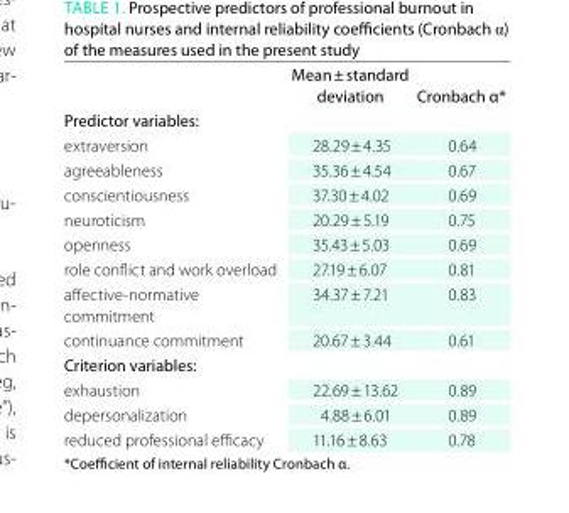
<table><thead><tr><td></td><td>Mean ± standard deviation</td><td>Cronbach α*</td></tr></thead><tbody><tr><td colspan="3">Predictor variables:</td></tr><tr><td>extraversion</td><td>28.29 ± 4.35</td><td>0.64</td></tr><tr><td>agreeableness</td><td>35.36 ± 4.54</td><td>0.67</td></tr><tr><td>conscientiousness</td><td>37.30 ± 4.02</td><td>0.69</td></tr><tr><td>neuroticism</td><td>20.29 ± 5.19</td><td>0.75</td></tr><tr><td>openness</td><td>35.43 ± 5.03</td><td>0.69</td></tr><tr><td>role conflict and work overload</td><td>27.19 ± 6.07</td><td>0.81</td></tr><tr><td>affective-normative commitment</td><td>34.37 ± 7.21</td><td>0.83</td></tr><tr><td>continuance commitment</td><td>20.67 ± 3.44</td><td>0.61</td></tr><tr><td colspan="3">Criterion variables:</td></tr><tr><td>exhaustion</td><td>22.69 ± 13.62</td><td>0.89</td></tr><tr><td>depersonalization</td><td>4.88 ± 6.01</td><td>0.89</td></tr><tr><td>reduced professional efficacy</td><td>11.16 ± 8.63</td><td>0.78</td></tr></tbody></table>